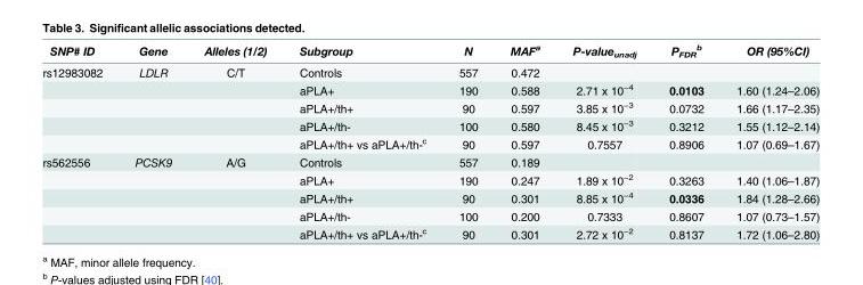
<table><thead><tr><td>SNP# ID</td><td>Gene</td><td>Alleles (1/2)</td><td>Subgroup</td><td>N</td><td>MAF<sup>a</sup></td><td>P-value<sub>unadj</sub></td><td>P<sub>FDR</sub> <sup>b</sup></td><td>OR (95%CI)</td></tr></thead><tbody><tr><td rowspan="5">rs12983082</td><td>LDLR</td><td>C/T</td><td>Controls</td><td>557</td><td>0.472</td><td></td><td></td><td></td></tr><tr><td></td><td></td><td>aPLA+</td><td>190</td><td>0.588</td><td>2.71 x 10<sup>−4</sup></td><td>0.0103</td><td>1.60 (1.24–2.06)</td></tr><tr><td></td><td></td><td>aPLA+/th+</td><td>90</td><td>0.597</td><td>3.85 x 10<sup>−3</sup></td><td>0.0732</td><td>1.66 (1.17–2.35)</td></tr><tr><td></td><td></td><td>aPLA+/th-</td><td>100</td><td>0.580</td><td>8.45 x 10<sup>−3</sup></td><td>0.3212</td><td>1.55 (1.12–2.14)</td></tr><tr><td></td><td></td><td>aPLA+/th+ vs aPLA+/th-<sup>c</sup></td><td>90</td><td>0.597</td><td>0.7557</td><td>0.8906</td><td>1.07 (0.69–1.67)</td></tr><tr><td rowspan="5">rs562556</td><td>PCSK9</td><td>A/G</td><td>Controls</td><td>557</td><td>0.189</td><td></td><td></td><td></td></tr><tr><td></td><td></td><td>aPLA+</td><td>190</td><td>0.247</td><td>1.89 x 10<sup>−2</sup></td><td>0.3263</td><td>1.40 (1.06–1.87)</td></tr><tr><td></td><td></td><td>aPLA+/th+</td><td>90</td><td>0.301</td><td>8.85 x 10<sup>−4</sup></td><td>0.0336</td><td>1.84 (1.28–2.66)</td></tr><tr><td></td><td></td><td>aPLA+/th-</td><td>100</td><td>0.200</td><td>0.7333</td><td>0.8607</td><td>1.07 (0.73–1.57)</td></tr><tr><td></td><td></td><td>aPLA+/th+ vs aPLA+/th-<sup>c</sup></td><td>90</td><td>0.301</td><td>2.72 x 10<sup>−2</sup></td><td>0.8137</td><td>1.72 (1.06–2.80)</td></tr></tbody></table>